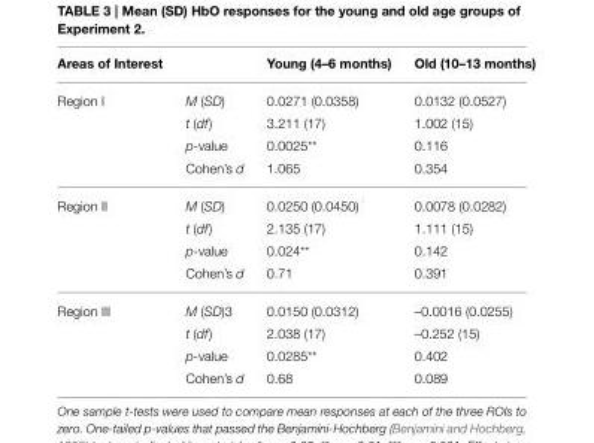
<table><thead><tr><td>Areas of Interest</td><td></td><td>Young (4–6 months)</td><td>Old (10–13 months)</td></tr></thead><tbody><tr><td rowspan="4">Region I</td><td>M (SD)</td><td>0.0271 (0.0358)</td><td>0.0132 (0.0527)</td></tr><tr><td>t (df)</td><td>3.211 (17)</td><td>1.002 (15)</td></tr><tr><td>p-value</td><td>0.0025**</td><td>0.116</td></tr><tr><td>Cohen’s d</td><td>1.065</td><td>0.354</td></tr><tr><td rowspan="4">Region II</td><td>M (SD)</td><td>0.0250 (0.0450)</td><td>0.0078 (0.0282)</td></tr><tr><td>t (df)</td><td>2.135 (17)</td><td>1.111 (15)</td></tr><tr><td>p-value</td><td>0.024**</td><td>0.142</td></tr><tr><td>Cohen’s d</td><td>0.71</td><td>0.391</td></tr><tr><td rowspan="4">Region III</td><td>M (SD)3</td><td>0.0150 (0.0312)</td><td>–0.0016 (0.0255)</td></tr><tr><td>t (df)</td><td>2.038 (17)</td><td>–0.252 (15)</td></tr><tr><td>p-value</td><td>0.0285**</td><td>0.402</td></tr><tr><td>Cohen’s d</td><td>0.68</td><td>0.089</td></tr></tbody></table>